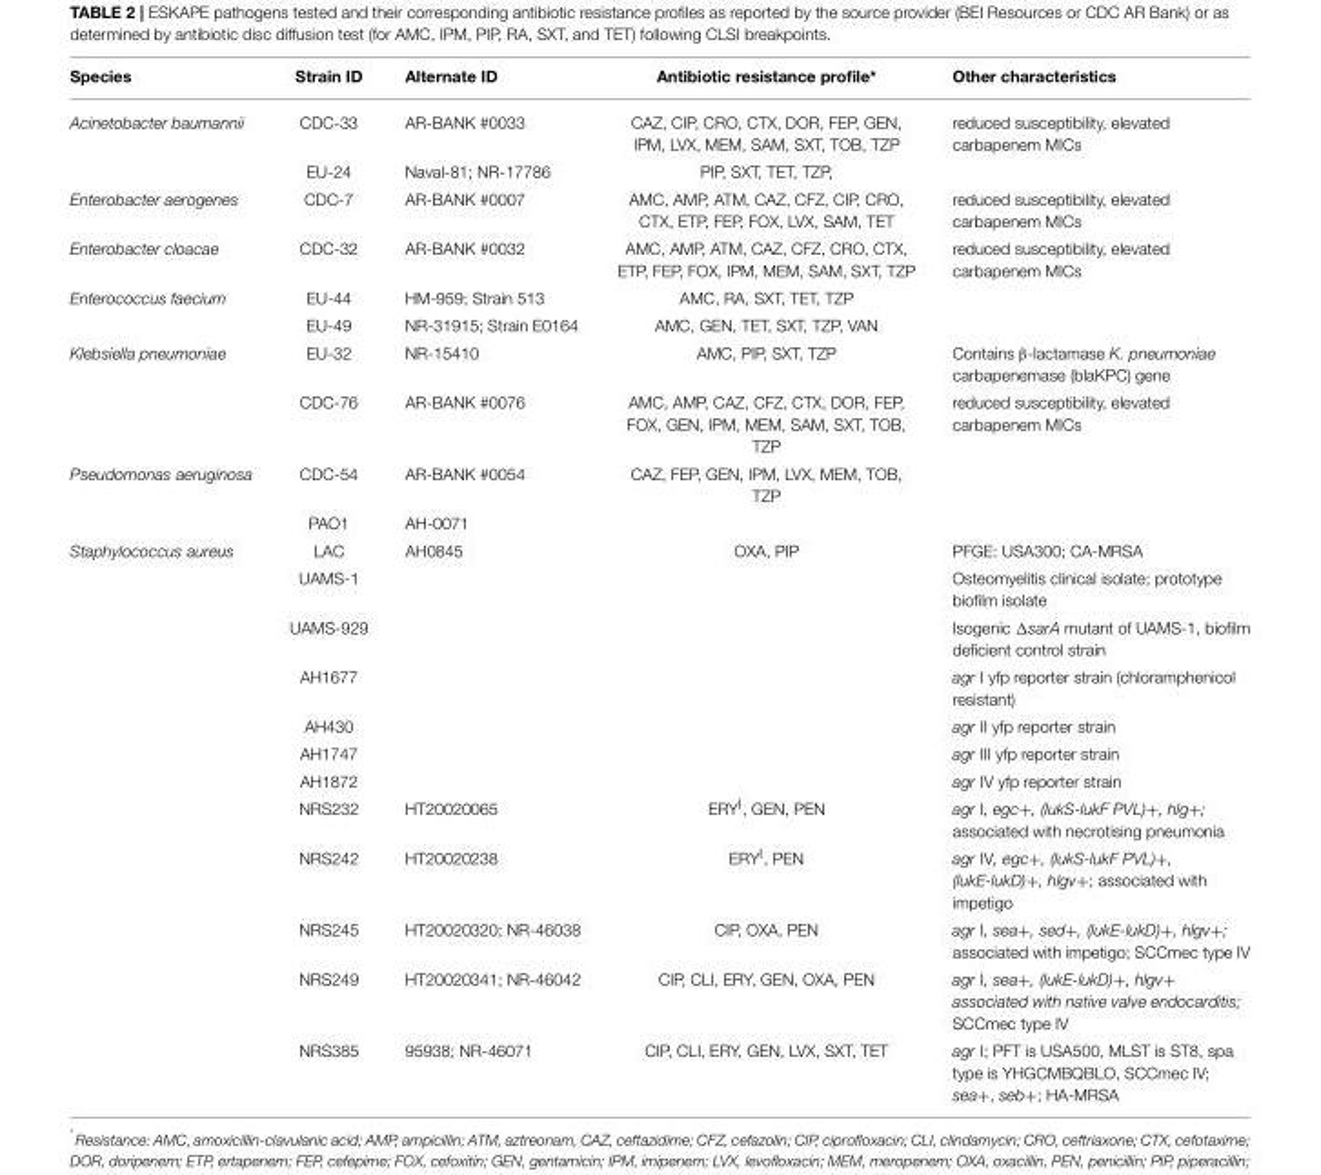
<table><thead><tr><td>Species</td><td>Strain ID</td><td>Alternate ID</td><td>Antibiotic resistance profile*</td><td>Other characteristics</td></tr></thead><tbody><tr><td rowspan="2">Acinetobacter baumannii</td><td>CDC-33</td><td>AR-BANK #0033</td><td>CAZ, CIP, CRO, CTX, DOR, FEP, GEN, IPM, LVX, MEM, SAM, SXT, TOB, TZP</td><td>reduced susceptibility, elevated carbapenem MICs</td></tr><tr><td>EU-24</td><td>Naval-81; NR-17786</td><td>PIP, SXT, TET, TZP,</td><td></td></tr><tr><td>Enterobacter aerogenes</td><td>CDC-7</td><td>AR-BANK #0007</td><td>AMC, AMP, ATM, CAZ, CFZ, CIP, CRO, CTX, ETP, FEP, FOX, LVX, SAM, TET</td><td>reduced susceptibility, elevated carbapenem MICs</td></tr><tr><td>Enterobacter cloacae</td><td>CDC-32</td><td>AR-BANK #0032</td><td>AMC, AMP, ATM, CAZ, CFZ, CRO, CTX, ETP, FEP, FOX, IPM, MEM, SAM, SXT, TZP</td><td>reduced susceptibility, elevated carbapenem MICs</td></tr><tr><td rowspan="2">Enterococcus faecium</td><td>EU-44</td><td>HM-959; Strain 513</td><td>AMC, RA, SXT, TET, TZP</td><td></td></tr><tr><td>EU-49</td><td>NR-31915; Strain E0164</td><td>AMC, GEN, TET, SXT, TZP, VAN</td><td></td></tr><tr><td rowspan="2">Klebsiella pneumoniae</td><td>EU-32</td><td>NR-15410</td><td>AMC, PIP, SXT, TZP</td><td>Contains β-lactamase K. pneumoniae carbapenemase (blaKPC) gene</td></tr><tr><td>CDC-76</td><td>AR-BANK #0076</td><td>AMC, AMP, CAZ, CFZ, CTX, DOR, FEP, FOX, GEN, IPM, MEM, SAM, SXT, TOB, TZP</td><td>reduced susceptibility, elevated carbapenem MICs</td></tr><tr><td rowspan="2">Pseudomonas aeruginosa</td><td>CDC-54</td><td>AR-BANK #0054</td><td>CAZ, FEP, GEN, IPM, LVX, MEM, TOB, TZP</td><td></td></tr><tr><td>PAO1</td><td>AH-0071</td><td></td><td></td></tr><tr><td rowspan="12">Staphylococcus aureus</td><td>LAC</td><td>AH0845</td><td>OXA, PIP</td><td>PFGE: USA300; CA-MRSA</td></tr><tr><td>UAMS-1</td><td></td><td></td><td>Osteomyelitis clinical isolate; prototype biofilm isolate</td></tr><tr><td>UAMS-929</td><td></td><td></td><td>Isogenic ΔsarA mutant of UAMS-1, biofilm deficient control strain</td></tr><tr><td>AH1677</td><td></td><td></td><td>agr I yfp reporter strain (chloramphenicol resistant)</td></tr><tr><td>AH430</td><td></td><td></td><td>agr II yfp reporter strain</td></tr><tr><td>AH1747</td><td></td><td></td><td>agr III yfp reporter strain</td></tr><tr><td>AH1872</td><td></td><td></td><td>agr IV yfp reporter strain</td></tr><tr><td>NRS232</td><td>HT20020065</td><td>ERY<sup>I</sup>, GEN, PEN</td><td>agr I, egc+, (lukS-lukF PVL)+, hlg+; associated with necrotising pneumonia</td></tr><tr><td>NRS242</td><td>HT20020238</td><td>ERY<sup>I</sup>, PEN</td><td>agr IV, egc+, (lukS-lukF PVL)+, (lukE-lukD)+, hlgv+; associated with impetigo</td></tr><tr><td>NRS245</td><td>HT20020320; NR-46038</td><td>CIP, OXA, PEN</td><td>agr I, sea+, sed+, (lukE-lukD)+, hlgv+; associated with impetigo; SCCmec type IV</td></tr><tr><td>NRS249</td><td>HT20020341; NR-46042</td><td>CIP, CLI, ERY, GEN, OXA, PEN</td><td>agr I, sea+, (lukE-lukD)+, hlgv+ associated with native valve endocarditis; SCCmec type IV</td></tr><tr><td>NRS385</td><td>95938; NR-46071</td><td>CIP, CLI, ERY, GEN, LVX, SXT, TET</td><td>agr I; PFT is USA500, MLST is ST8, spa type is YHGCMBQBLO, SCCmec IV; sea+, seb+; HA-MRSA</td></tr></tbody></table>